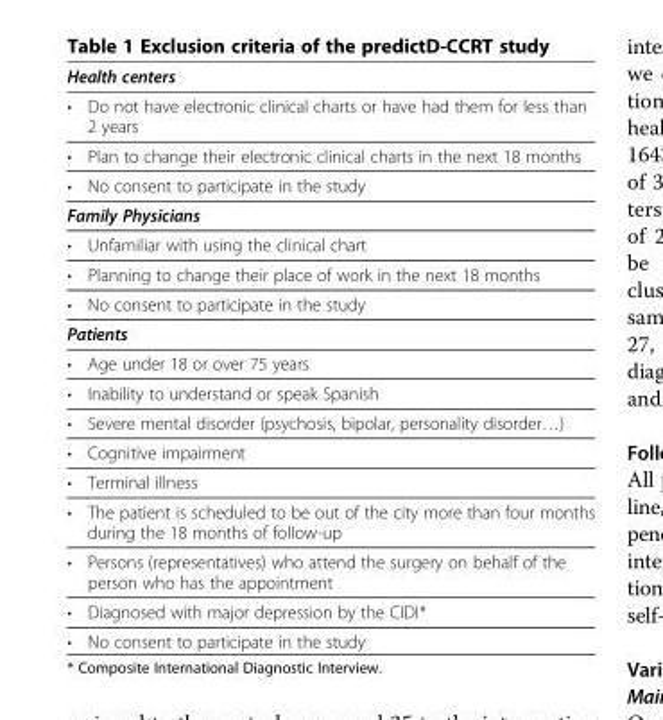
<table><thead><tr><td colspan="2">Health centers</td></tr><tr><td>•</td><td>Do not have electronic clinical charts or have had them for less than 2 years</td></tr></thead><tbody><tr><td>•</td><td>Plan to change their electronic clinical charts in the next 18 months</td></tr><tr><td>•</td><td>No consent to participate in the study</td></tr><tr><td colspan="2">Family Physicians</td></tr><tr><td>•</td><td>Unfamiliar with using the clinical chart</td></tr><tr><td>•</td><td>Planning to change their place of work in the next 18 months</td></tr><tr><td>•</td><td>No consent to participate in the study</td></tr><tr><td colspan="2">Patients</td></tr><tr><td>•</td><td>Age under 18 or over 75 years</td></tr><tr><td>•</td><td>Inability to understand or speak Spanish</td></tr><tr><td>•</td><td>Severe mental disorder (psychosis, bipolar, personality disorder…)</td></tr><tr><td>•</td><td>Cognitive impairment</td></tr><tr><td>•</td><td>Terminal illness</td></tr><tr><td>•</td><td>The patient is scheduled to be out of the city more than four months during the 18 months of follow-up</td></tr><tr><td>•</td><td>Persons (representatives) who attend the surgery on behalf of the person who has the appointment</td></tr><tr><td>•</td><td>Diagnosed with major depression by the CIDI*</td></tr><tr><td>•</td><td>No consent to participate in the study</td></tr></tbody></table>